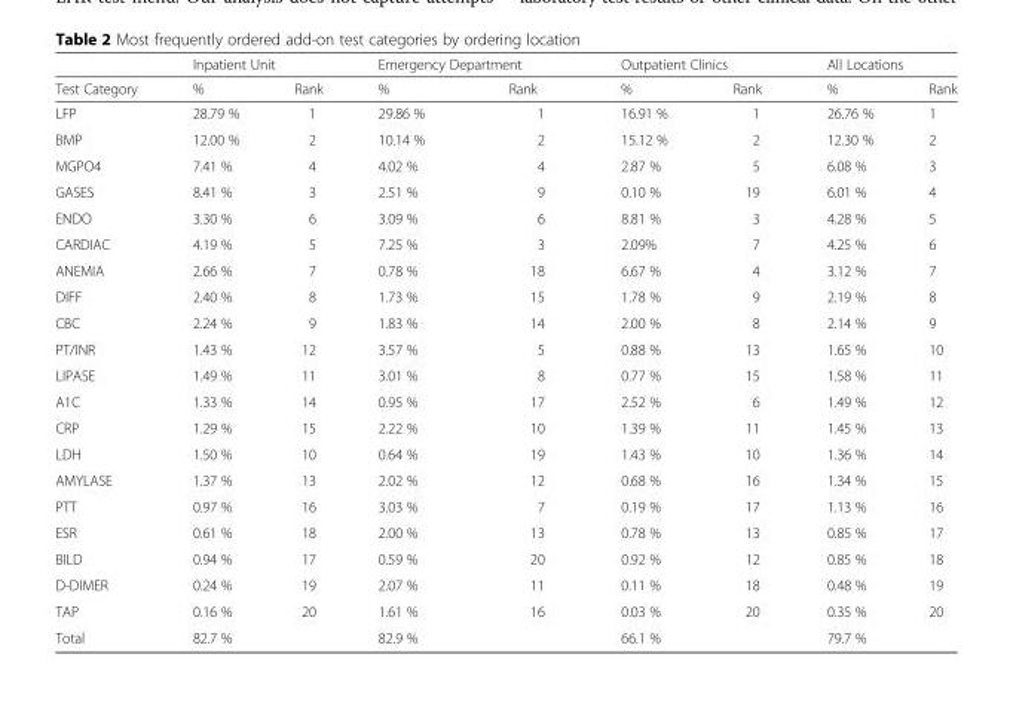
<table><thead><tr><td rowspan="2">Test Category</td><td colspan="2">Inpatient Unit</td><td colspan="2">Emergency Department</td><td colspan="2">Outpatient Clinics</td><td colspan="2">All Locations</td></tr><tr><td>%</td><td>Rank</td><td>%</td><td>Rank</td><td>%</td><td>Rank</td><td>%</td><td>Rank</td></tr></thead><tbody><tr><td>LFP</td><td>28.79 %</td><td>1</td><td>29.86 %</td><td>1</td><td>16.91 %</td><td>1</td><td>26.76 %</td><td>1</td></tr><tr><td>BMP</td><td>12.00 %</td><td>2</td><td>10.14 %</td><td>2</td><td>15.12 %</td><td>2</td><td>12.30 %</td><td>2</td></tr><tr><td>MGPO4</td><td>7.41 %</td><td>4</td><td>4.02 %</td><td>4</td><td>2.87 %</td><td>5</td><td>6.08 %</td><td>3</td></tr><tr><td>GASES</td><td>8.41 %</td><td>3</td><td>2.51 %</td><td>9</td><td>0.10 %</td><td>19</td><td>6.01 %</td><td>4</td></tr><tr><td>ENDO</td><td>3.30 %</td><td>6</td><td>3.09 %</td><td>6</td><td>8.81 %</td><td>3</td><td>4.28 %</td><td>5</td></tr><tr><td>CARDIAC</td><td>4.19 %</td><td>5</td><td>7.25 %</td><td>3</td><td>2.09%</td><td>7</td><td>4.25 %</td><td>6</td></tr><tr><td>ANEMIA</td><td>2.66 %</td><td>7</td><td>0.78 %</td><td>18</td><td>6.67 %</td><td>4</td><td>3.12 %</td><td>7</td></tr><tr><td>DIFF</td><td>2.40 %</td><td>8</td><td>1.73 %</td><td>15</td><td>1.78 %</td><td>9</td><td>2.19 %</td><td>8</td></tr><tr><td>CBC</td><td>2.24 %</td><td>9</td><td>1.83 %</td><td>14</td><td>2.00 %</td><td>8</td><td>2.14 %</td><td>9</td></tr><tr><td>PT/INR</td><td>1.43 %</td><td>12</td><td>3.57 %</td><td>5</td><td>0.88 %</td><td>13</td><td>1.65 %</td><td>10</td></tr><tr><td>LIPASE</td><td>1.49 %</td><td>11</td><td>3.01 %</td><td>8</td><td>0.77 %</td><td>15</td><td>1.58 %</td><td>11</td></tr><tr><td>A1C</td><td>1.33 %</td><td>14</td><td>0.95 %</td><td>17</td><td>2.52 %</td><td>6</td><td>1.49 %</td><td>12</td></tr><tr><td>CRP</td><td>1.29 %</td><td>15</td><td>2.22 %</td><td>10</td><td>1.39 %</td><td>11</td><td>1.45 %</td><td>13</td></tr><tr><td>LDH</td><td>1.50 %</td><td>10</td><td>0.64 %</td><td>19</td><td>1.43 %</td><td>10</td><td>1.36 %</td><td>14</td></tr><tr><td>AMYLASE</td><td>1.37 %</td><td>13</td><td>2.02 %</td><td>12</td><td>0.68 %</td><td>16</td><td>1.34 %</td><td>15</td></tr><tr><td>PTT</td><td>0.97 %</td><td>16</td><td>3.03 %</td><td>7</td><td>0.19 %</td><td>17</td><td>1.13 %</td><td>16</td></tr><tr><td>ESR</td><td>0.61 %</td><td>18</td><td>2.00 %</td><td>13</td><td>0.78 %</td><td>13</td><td>0.85 %</td><td>17</td></tr><tr><td>BILD</td><td>0.94 %</td><td>17</td><td>0.59 %</td><td>20</td><td>0.92 %</td><td>12</td><td>0.85 %</td><td>18</td></tr><tr><td>D-DIMER</td><td>0.24 %</td><td>19</td><td>2.07 %</td><td>11</td><td>0.11 %</td><td>18</td><td>0.48 %</td><td>19</td></tr><tr><td>TAP</td><td>0.16 %</td><td>20</td><td>1.61 %</td><td>16</td><td>0.03 %</td><td>20</td><td>0.35 %</td><td>20</td></tr><tr><td>Total</td><td>82.7 %</td><td></td><td>82.9 %</td><td></td><td>66.1 %</td><td></td><td>79.7 %</td><td></td></tr></tbody></table>